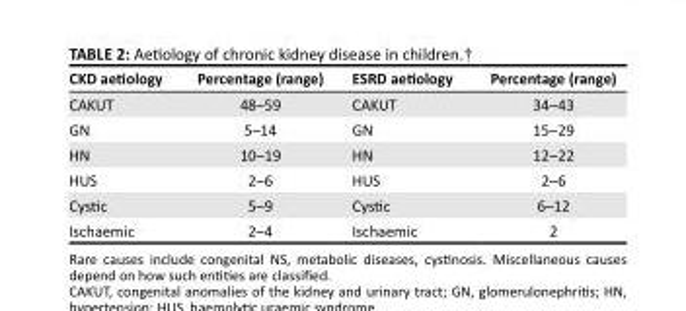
<table><thead><tr><td>CKD aetiology</td><td>Percentage (range)</td><td>ESRD aetiology</td><td>Percentage (range)</td></tr></thead><tbody><tr><td>CAKUT</td><td>48–59</td><td>CAKUT</td><td>34–43</td></tr><tr><td>GN</td><td>5–14</td><td>GN</td><td>15–29</td></tr><tr><td>HN</td><td>10–19</td><td>HN</td><td>12–22</td></tr><tr><td>HUS</td><td>2–6</td><td>HUS</td><td>2–6</td></tr><tr><td>Cystic</td><td>5–9</td><td>Cystic</td><td>6–12</td></tr><tr><td>Ischaemic</td><td>2–4</td><td>Ischaemic</td><td>2</td></tr></tbody></table>